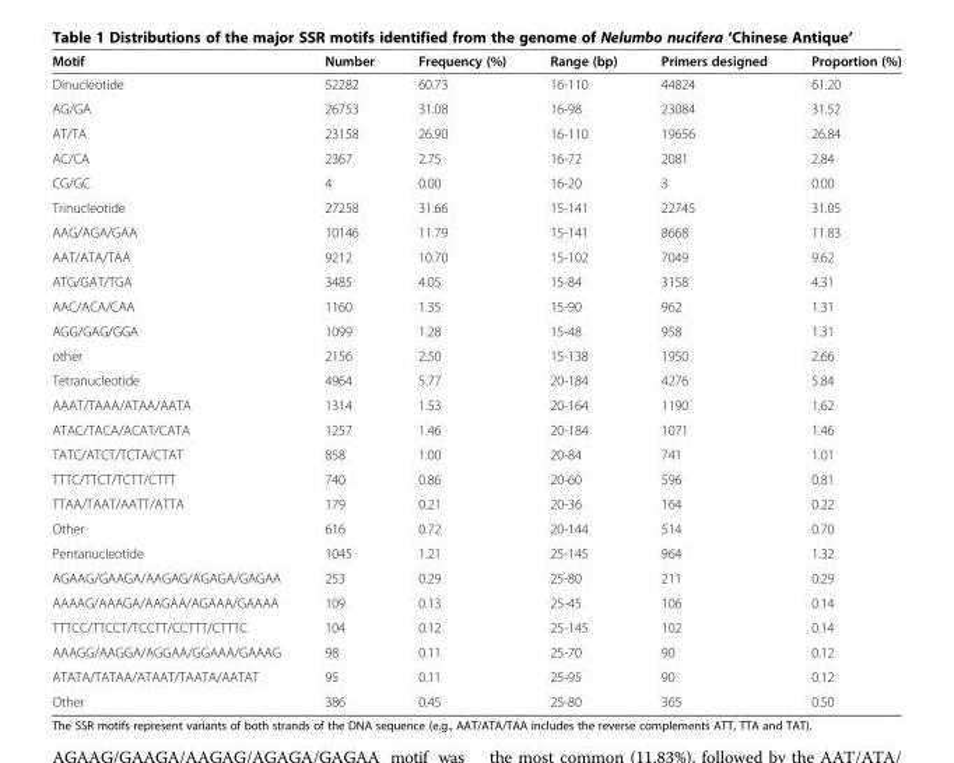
<table><thead><tr><td>Motif</td><td>Number</td><td>Frequency (%)</td><td>Range (bp)</td><td>Primers designed</td><td>Proportion (%)</td></tr></thead><tbody><tr><td>Dinucleotide</td><td>52282</td><td>60.73</td><td>16-110</td><td>44824</td><td>61.20</td></tr><tr><td>AG/GA</td><td>26753</td><td>31.08</td><td>16-98</td><td>23084</td><td>31.52</td></tr><tr><td>AT/TA</td><td>23158</td><td>26.90</td><td>16-110</td><td>19656</td><td>26.84</td></tr><tr><td>AC/CA</td><td>2367</td><td>2.75</td><td>16-72</td><td>2081</td><td>2.84</td></tr><tr><td>CG/GC</td><td>4</td><td>0.00</td><td>16-20</td><td>3</td><td>0.00</td></tr><tr><td>Trinucleotide</td><td>27258</td><td>31.66</td><td>15-141</td><td>22745</td><td>31.05</td></tr><tr><td>AAG/AGA/GAA</td><td>10146</td><td>11.79</td><td>15-141</td><td>8668</td><td>11.83</td></tr><tr><td>AAT/ATA/TAA</td><td>9212</td><td>10.70</td><td>15-102</td><td>7049</td><td>9.62</td></tr><tr><td>ATG/GAT/TGA</td><td>3485</td><td>4.05</td><td>15-84</td><td>3158</td><td>4.31</td></tr><tr><td>AAC/ACA/CAA</td><td>1160</td><td>1.35</td><td>15-90</td><td>962</td><td>1.31</td></tr><tr><td>AGG/GAG/GGA</td><td>1099</td><td>1.28</td><td>15-48</td><td>958</td><td>1.31</td></tr><tr><td>other</td><td>2156</td><td>2.50</td><td>15-138</td><td>1950</td><td>2.66</td></tr><tr><td>Tetranucleotide</td><td>4964</td><td>5.77</td><td>20-184</td><td>4276</td><td>5.84</td></tr><tr><td>AAAT/TAAA/ATAA/AATA</td><td>1314</td><td>1.53</td><td>20-164</td><td>1190</td><td>1.62</td></tr><tr><td>ATAC/TACA/ACAT/CATA</td><td>1257</td><td>1.46</td><td>20-184</td><td>1071</td><td>1.46</td></tr><tr><td>TATC/ATCT/TCTA/CTAT</td><td>858</td><td>1.00</td><td>20-84</td><td>741</td><td>1.01</td></tr><tr><td>TTTC/TTCT/TCTT/CTTT</td><td>740</td><td>0.86</td><td>20-60</td><td>596</td><td>0.81</td></tr><tr><td>TTAA/TAAT/AATT/ATTA</td><td>179</td><td>0.21</td><td>20-36</td><td>164</td><td>0.22</td></tr><tr><td>Other</td><td>616</td><td>0.72</td><td>20-144</td><td>514</td><td>0.70</td></tr><tr><td>Pentanucleotide</td><td>1045</td><td>1.21</td><td>25-145</td><td>964</td><td>1.32</td></tr><tr><td>AGAAG/GAAGA/AAGAG/AGAGA/GAGAA</td><td>253</td><td>0.29</td><td>25-80</td><td>211</td><td>0.29</td></tr><tr><td>AAAAG/AAAGA/AAGAA/AGAAA/GAAAA</td><td>109</td><td>0.13</td><td>25-45</td><td>106</td><td>0.14</td></tr><tr><td>TTTCC/TTCCT/TCCTT/CCTTT/CTTTC</td><td>104</td><td>0.12</td><td>25-145</td><td>102</td><td>0.14</td></tr><tr><td>AAAGG/AAGGA/AGGAA/GGAAA/GAAAG</td><td>98</td><td>0.11</td><td>25-70</td><td>90</td><td>0.12</td></tr><tr><td>ATATA/TATAA/ATAAT/TAATA/AATAT</td><td>95</td><td>0.11</td><td>25-95</td><td>90</td><td>0.12</td></tr><tr><td>Other</td><td>386</td><td>0.45</td><td>25-80</td><td>365</td><td>0.50</td></tr></tbody></table>